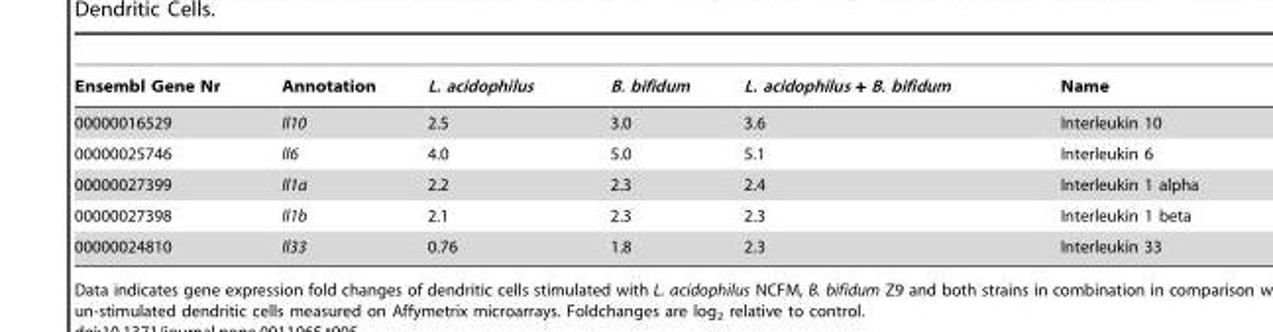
<table><thead><tr><td>Ensembl Gene Nr</td><td>Annotation</td><td>L. acidophilus</td><td>B. bifidum</td><td>L. acidophilus + B. bifidum</td><td>Name</td></tr></thead><tbody><tr><td>00000016529</td><td>Il10</td><td>2.5</td><td>3.0</td><td>3.6</td><td>Interleukin 10</td></tr><tr><td>00000025746</td><td>Il6</td><td>4.0</td><td>5.0</td><td>5.1</td><td>Interleukin 6</td></tr><tr><td>00000027399</td><td>Il1a</td><td>2.2</td><td>2.3</td><td>2.4</td><td>Interleukin 1 alpha</td></tr><tr><td>00000027398</td><td>Il1b</td><td>2.1</td><td>2.3</td><td>2.3</td><td>Interleukin 1 beta</td></tr><tr><td>00000024810</td><td>Il33</td><td>0.76</td><td>1.8</td><td>2.3</td><td>Interleukin 33</td></tr></tbody></table>